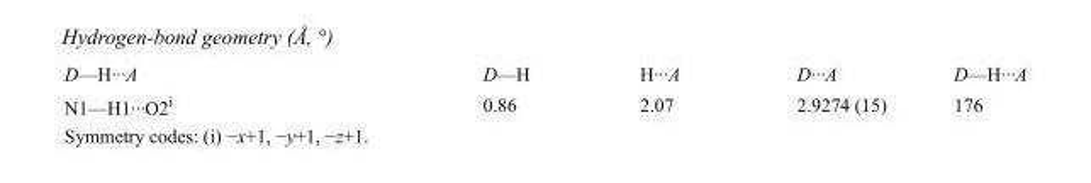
<table><tbody><tr><td>D—H···A</td><td>D—H</td><td>H···A</td><td>D···A</td><td>D—H···A</td></tr><tr><td>N1—H1···O2<sup>i</sup></td><td>0.86</td><td>2.07</td><td>2.9274 (15)</td><td>176</td></tr></tbody></table>